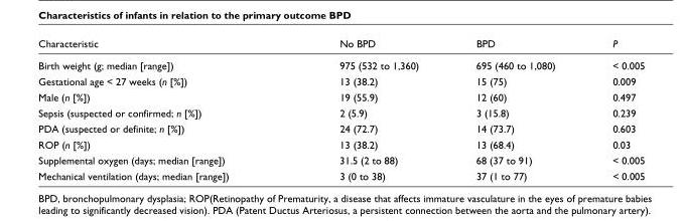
<table><thead><tr><td>Characteristic</td><td>No BPD</td><td>BPD</td><td>P</td></tr></thead><tbody><tr><td>Birth weight (g; median [range])</td><td>975 (532 to 1,360)</td><td>695 (460 to 1,080)</td><td>&lt; 0.005</td></tr><tr><td>Gestational age &lt; 27 weeks (n [%])</td><td>13 (38.2)</td><td>15 (75)</td><td>0.009</td></tr><tr><td>Male (n [%])</td><td>19 (55.9)</td><td>12 (60)</td><td>0.497</td></tr><tr><td>Sepsis (suspected or confirmed; n [%])</td><td>2 (5.9)</td><td>3 (15.8)</td><td>0.239</td></tr><tr><td>PDA (suspected or definite; n [%])</td><td>24 (72.7)</td><td>14 (73.7)</td><td>0.603</td></tr><tr><td>ROP (n [%])</td><td>13 (38.2)</td><td>13 (68.4)</td><td>0.03</td></tr><tr><td>Supplemental oxygen (days; median [range])</td><td>31.5 (2 to 88)</td><td>68 (37 to 91)</td><td>&lt; 0.005</td></tr><tr><td>Mechanical ventilation (days; median [range])</td><td>3 (0 to 38)</td><td>37 (1 to 77)</td><td>&lt; 0.005</td></tr></tbody></table>